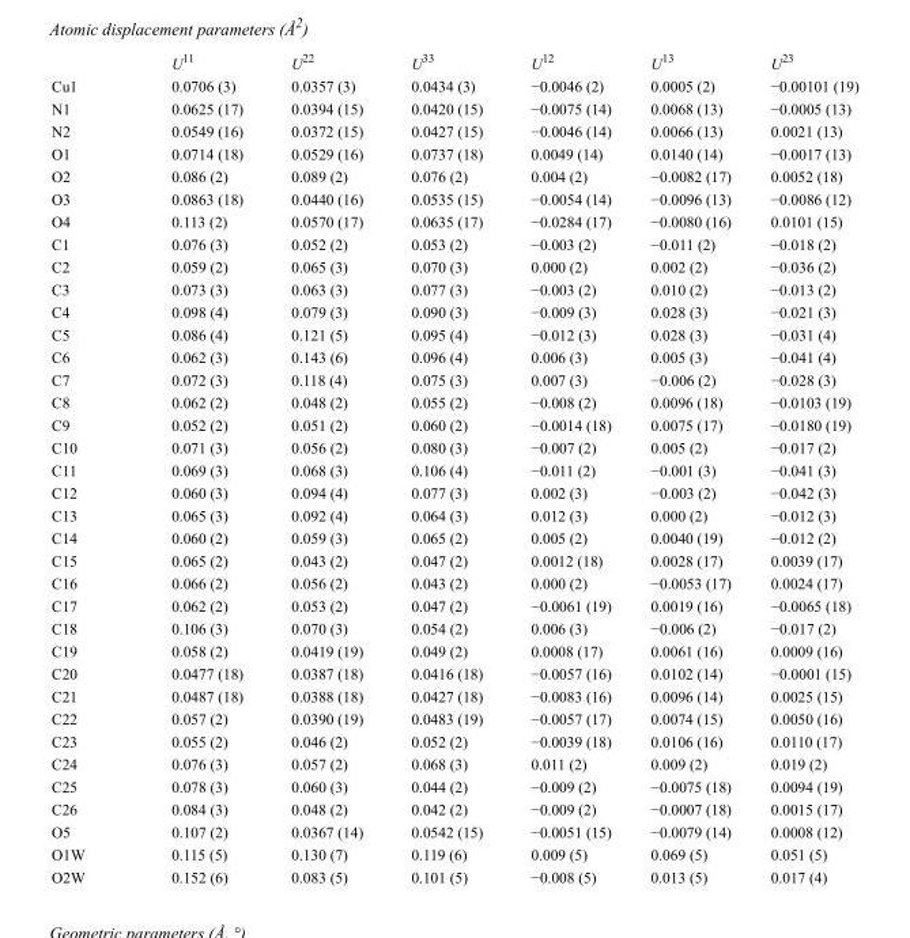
<table><thead><tr><td></td><td>U<sup>11</sup></td><td>U<sup>22</sup></td><td>U<sup>33</sup></td><td>U<sup>12</sup></td><td>U<sup>13</sup></td><td>U<sup>23</sup></td></tr></thead><tbody><tr><td>Cu1</td><td>0.0706 (3)</td><td>0.0357 (3)</td><td>0.0434 (3)</td><td>−0.0046 (2)</td><td>0.0005 (2)</td><td>−0.00101 (19)</td></tr><tr><td>N1</td><td>0.0625 (17)</td><td>0.0394 (15)</td><td>0.0420 (15)</td><td>−0.0075 (14)</td><td>0.0068 (13)</td><td>−0.0005 (13)</td></tr><tr><td>N2</td><td>0.0549 (16)</td><td>0.0372 (15)</td><td>0.0427 (15)</td><td>−0.0046 (14)</td><td>0.0066 (13)</td><td>0.0021 (13)</td></tr><tr><td>O1</td><td>0.0714 (18)</td><td>0.0529 (16)</td><td>0.0737 (18)</td><td>0.0049 (14)</td><td>0.0140 (14)</td><td>−0.0017 (13)</td></tr><tr><td>O2</td><td>0.086 (2)</td><td>0.089 (2)</td><td>0.076 (2)</td><td>0.004 (2)</td><td>−0.0082 (17)</td><td>0.0052 (18)</td></tr><tr><td>O3</td><td>0.0863 (18)</td><td>0.0440 (16)</td><td>0.0535 (15)</td><td>−0.0054 (14)</td><td>−0.0096 (13)</td><td>−0.0086 (12)</td></tr><tr><td>O4</td><td>0.113 (2)</td><td>0.0570 (17)</td><td>0.0635 (17)</td><td>−0.0284 (17)</td><td>−0.0080 (16)</td><td>0.0101 (15)</td></tr><tr><td>C1</td><td>0.076 (3)</td><td>0.052 (2)</td><td>0.053 (2)</td><td>−0.003 (2)</td><td>−0.011 (2)</td><td>−0.018 (2)</td></tr><tr><td>C2</td><td>0.059 (2)</td><td>0.065 (3)</td><td>0.070 (3)</td><td>0.000 (2)</td><td>0.002 (2)</td><td>−0.036 (2)</td></tr><tr><td>C3</td><td>0.073 (3)</td><td>0.063 (3)</td><td>0.077 (3)</td><td>−0.003 (2)</td><td>0.010 (2)</td><td>−0.013 (2)</td></tr><tr><td>C4</td><td>0.098 (4)</td><td>0.079 (3)</td><td>0.090 (3)</td><td>−0.009 (3)</td><td>0.028 (3)</td><td>−0.021 (3)</td></tr><tr><td>C5</td><td>0.086 (4)</td><td>0.121 (5)</td><td>0.095 (4)</td><td>−0.012 (3)</td><td>0.028 (3)</td><td>−0.031 (4)</td></tr><tr><td>C6</td><td>0.062 (3)</td><td>0.143 (6)</td><td>0.096 (4)</td><td>0.006 (3)</td><td>0.005 (3)</td><td>−0.041 (4)</td></tr><tr><td>C7</td><td>0.072 (3)</td><td>0.118 (4)</td><td>0.075 (3)</td><td>0.007 (3)</td><td>−0.006 (2)</td><td>−0.028 (3)</td></tr><tr><td>C8</td><td>0.062 (2)</td><td>0.048 (2)</td><td>0.055 (2)</td><td>−0.008 (2)</td><td>0.0096 (18)</td><td>−0.0103 (19)</td></tr><tr><td>C9</td><td>0.052 (2)</td><td>0.051 (2)</td><td>0.060 (2)</td><td>−0.0014 (18)</td><td>0.0075 (17)</td><td>−0.0180 (19)</td></tr><tr><td>C10</td><td>0.071 (3)</td><td>0.056 (2)</td><td>0.080 (3)</td><td>−0.007 (2)</td><td>0.005 (2)</td><td>−0.017 (2)</td></tr><tr><td>C11</td><td>0.069 (3)</td><td>0.068 (3)</td><td>0.106 (4)</td><td>−0.011 (2)</td><td>−0.001 (3)</td><td>−0.041 (3)</td></tr><tr><td>C12</td><td>0.060 (3)</td><td>0.094 (4)</td><td>0.077 (3)</td><td>0.002 (3)</td><td>−0.003 (2)</td><td>−0.042 (3)</td></tr><tr><td>C13</td><td>0.065 (3)</td><td>0.092 (4)</td><td>0.064 (3)</td><td>0.012 (3)</td><td>0.000 (2)</td><td>−0.012 (3)</td></tr><tr><td>C14</td><td>0.060 (2)</td><td>0.059 (3)</td><td>0.065 (2)</td><td>0.005 (2)</td><td>0.0040 (19)</td><td>−0.012 (2)</td></tr><tr><td>C15</td><td>0.065 (2)</td><td>0.043 (2)</td><td>0.047 (2)</td><td>0.0012 (18)</td><td>0.0028 (17)</td><td>0.0039 (17)</td></tr><tr><td>C16</td><td>0.066 (2)</td><td>0.056 (2)</td><td>0.043 (2)</td><td>0.000 (2)</td><td>−0.0053 (17)</td><td>0.0024 (17)</td></tr><tr><td>C17</td><td>0.062 (2)</td><td>0.053 (2)</td><td>0.047 (2)</td><td>−0.0061 (19)</td><td>0.0019 (16)</td><td>−0.0065 (18)</td></tr><tr><td>C18</td><td>0.106 (3)</td><td>0.070 (3)</td><td>0.054 (2)</td><td>0.006 (3)</td><td>−0.006 (2)</td><td>−0.017 (2)</td></tr><tr><td>C19</td><td>0.058 (2)</td><td>0.0419 (19)</td><td>0.049 (2)</td><td>0.0008 (17)</td><td>0.0061 (16)</td><td>0.0009 (16)</td></tr><tr><td>C20</td><td>0.0477 (18)</td><td>0.0387 (18)</td><td>0.0416 (18)</td><td>−0.0057 (16)</td><td>0.0102 (14)</td><td>−0.0001 (15)</td></tr><tr><td>C21</td><td>0.0487 (18)</td><td>0.0388 (18)</td><td>0.0427 (18)</td><td>−0.0083 (16)</td><td>0.0096 (14)</td><td>0.0025 (15)</td></tr><tr><td>C22</td><td>0.057 (2)</td><td>0.0390 (19)</td><td>0.0483 (19)</td><td>−0.0057 (17)</td><td>0.0074 (15)</td><td>0.0050 (16)</td></tr><tr><td>C23</td><td>0.055 (2)</td><td>0.046 (2)</td><td>0.052 (2)</td><td>−0.0039 (18)</td><td>0.0106 (16)</td><td>0.0110 (17)</td></tr><tr><td>C24</td><td>0.076 (3)</td><td>0.057 (2)</td><td>0.068 (3)</td><td>0.011 (2)</td><td>0.009 (2)</td><td>0.019 (2)</td></tr><tr><td>C25</td><td>0.078 (3)</td><td>0.060 (3)</td><td>0.044 (2)</td><td>−0.009 (2)</td><td>−0.0075 (18)</td><td>0.0094 (19)</td></tr><tr><td>C26</td><td>0.084 (3)</td><td>0.048 (2)</td><td>0.042 (2)</td><td>−0.009 (2)</td><td>−0.0007 (18)</td><td>0.0015 (17)</td></tr><tr><td>O5</td><td>0.107 (2)</td><td>0.0367 (14)</td><td>0.0542 (15)</td><td>−0.0051 (15)</td><td>−0.0079 (14)</td><td>0.0008 (12)</td></tr><tr><td>O1W</td><td>0.115 (5)</td><td>0.130 (7)</td><td>0.119 (6)</td><td>0.009 (5)</td><td>0.069 (5)</td><td>0.051 (5)</td></tr><tr><td>O2W</td><td>0.152 (6)</td><td>0.083 (5)</td><td>0.101 (5)</td><td>−0.008 (5)</td><td>0.013 (5)</td><td>0.017 (4)</td></tr></tbody></table>